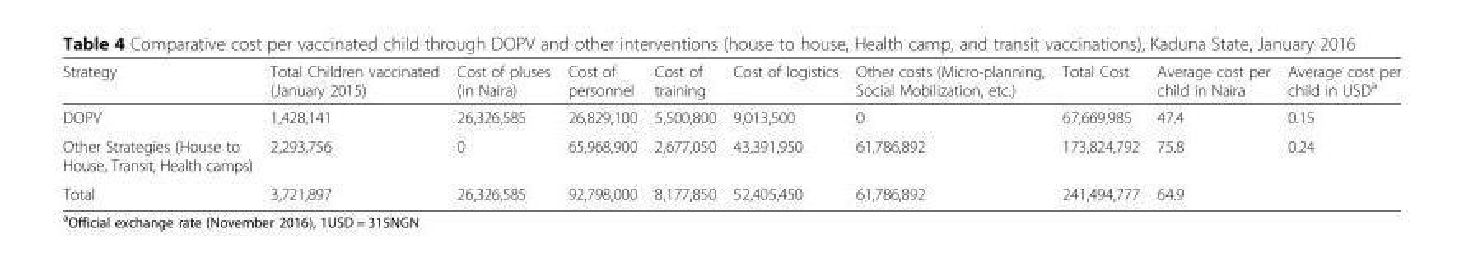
<table><thead><tr><td>Strategy</td><td>Total Children vaccinated (January 2015)</td><td>Cost of pluses (in Naira)</td><td>Cost of personnel</td><td>Cost of training</td><td>Cost of logistics</td><td>Other costs (Micro-planning, Social Mobilization, etc.)</td><td>Total Cost</td><td>Average cost per child in Naira</td><td>Average cost per child in USD<sup>a</sup></td></tr></thead><tbody><tr><td>DOPV</td><td>1,428,141</td><td>26,326,585</td><td>26,829,100</td><td>5,500,800</td><td>9,013,500</td><td>0</td><td>67,669,985</td><td>47.4</td><td>0.15</td></tr><tr><td>Other Strategies (House to House, Transit, Health camps)</td><td>2,293,756</td><td>0</td><td>65,968,900</td><td>2,677,050</td><td>43,391,950</td><td>61,786,892</td><td>173,824,792</td><td>75.8</td><td>0.24</td></tr><tr><td>Total</td><td>3,721,897</td><td>26,326,585</td><td>92,798,000</td><td>8,177,850</td><td>52,405,450</td><td>61,786,892</td><td>241,494,777</td><td>64.9</td><td></td></tr></tbody></table>